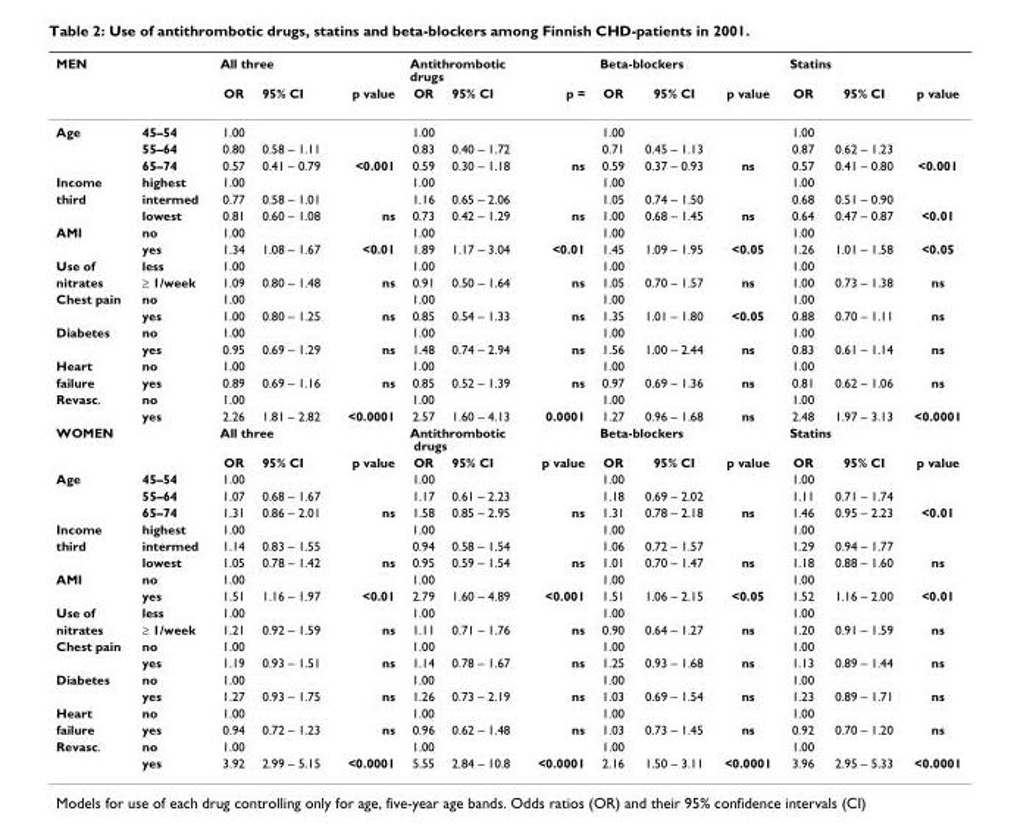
<table><thead><tr><td rowspan="2">MEN</td><td rowspan="2"></td><td colspan="3">All three</td><td colspan="3">Antithrombotic drugs</td><td colspan="3">Beta-blockers</td><td colspan="3">Statins</td></tr><tr><td>OR</td><td>95% CI</td><td>p value</td><td>OR</td><td>95% CI</td><td>p =</td><td>OR</td><td>95% CI</td><td>p value</td><td>OR</td><td>95% CI</td><td>p value</td></tr></thead><tbody><tr><td rowspan="3">Age</td><td>45–54</td><td>1.00</td><td></td><td></td><td>1.00</td><td></td><td></td><td>1.00</td><td></td><td></td><td>1.00</td><td></td><td></td></tr><tr><td>55–64</td><td>0.80</td><td>0.58 – 1.11</td><td></td><td>0.83</td><td>0.40 – 1.72</td><td></td><td>0.71</td><td>0.45 – 1.13</td><td></td><td>0.87</td><td>0.62 – 1.23</td><td></td></tr><tr><td>65–74</td><td>0.57</td><td>0.41 – 0.79</td><td>&lt;0.001</td><td>0.59</td><td>0.30 – 1.18</td><td>ns</td><td>0.59</td><td>0.37 – 0.93</td><td>ns</td><td>0.57</td><td>0.41 – 0.80</td><td>&lt;0.001</td></tr><tr><td>Income</td><td>highest</td><td>1.00</td><td></td><td></td><td>1.00</td><td></td><td></td><td>1.00</td><td></td><td></td><td>1.00</td><td></td><td></td></tr><tr><td rowspan="2">third</td><td>intermed</td><td>0.77</td><td>0.58 – 1.01</td><td></td><td>1.16</td><td>0.65 – 2.06</td><td></td><td>1.05</td><td>0.74 – 1.50</td><td></td><td>0.68</td><td>0.51 – 0.90</td><td></td></tr><tr><td>lowest</td><td>0.81</td><td>0.60 – 1.08</td><td>ns</td><td>0.73</td><td>0.42 – 1.29</td><td>ns</td><td>1.00</td><td>0.68 – 1.45</td><td>ns</td><td>0.64</td><td>0.47 – 0.87</td><td>&lt;0.01</td></tr><tr><td rowspan="2">AMI</td><td>no</td><td>1.00</td><td></td><td></td><td>1.00</td><td></td><td></td><td>1.00</td><td></td><td></td><td>1.00</td><td></td><td></td></tr><tr><td>yes</td><td>1.34</td><td>1.08 – 1.67</td><td>&lt;0.01</td><td>1.89</td><td>1.17 – 3.04</td><td>&lt;0.01</td><td>1.45</td><td>1.09 – 1.95</td><td>&lt;0.05</td><td>1.26</td><td>1.01 – 1.58</td><td>&lt;0.05</td></tr><tr><td>Use of</td><td>less</td><td>1.00</td><td></td><td></td><td>1.00</td><td></td><td></td><td>1.00</td><td></td><td></td><td>1.00</td><td></td><td></td></tr><tr><td>nitrates</td><td>≥ 1/week</td><td>1.09</td><td>0.80 – 1.48</td><td>ns</td><td>0.91</td><td>0.50 – 1.64</td><td>ns</td><td>1.05</td><td>0.70 – 1.57</td><td>ns</td><td>1.00</td><td>0.73 – 1.38</td><td>ns</td></tr><tr><td rowspan="2">Chest pain</td><td>no</td><td>1.00</td><td></td><td></td><td>1.00</td><td></td><td></td><td>1.00</td><td></td><td></td><td>1.00</td><td></td><td></td></tr><tr><td>yes</td><td>1.00</td><td>0.80 – 1.25</td><td>ns</td><td>0.85</td><td>0.54 – 1.33</td><td>ns</td><td>1.35</td><td>1.01 – 1.80</td><td>&lt;0.05</td><td>0.88</td><td>0.70 – 1.11</td><td>ns</td></tr><tr><td rowspan="2">Diabetes</td><td>no</td><td>1.00</td><td></td><td></td><td>1.00</td><td></td><td></td><td>1.00</td><td></td><td></td><td>1.00</td><td></td><td></td></tr><tr><td>yes</td><td>0.95</td><td>0.69 – 1.29</td><td>ns</td><td>1.48</td><td>0.74 – 2.94</td><td>ns</td><td>1.56</td><td>1.00 – 2.44</td><td>ns</td><td>0.83</td><td>0.61 – 1.14</td><td>ns</td></tr><tr><td>Heart</td><td>no</td><td>1.00</td><td></td><td></td><td>1.00</td><td></td><td></td><td>1.00</td><td></td><td></td><td>1.00</td><td></td><td></td></tr><tr><td>failure</td><td>yes</td><td>0.89</td><td>0.69 – 1.16</td><td>ns</td><td>0.85</td><td>0.52 – 1.39</td><td>ns</td><td>0.97</td><td>0.69 – 1.36</td><td>ns</td><td>0.81</td><td>0.62 – 1.06</td><td>ns</td></tr><tr><td rowspan="2">Revasc.</td><td>no</td><td>1.00</td><td></td><td></td><td>1.00</td><td></td><td></td><td>1.00</td><td></td><td></td><td>1.00</td><td></td><td></td></tr><tr><td>yes</td><td>2.26</td><td>1.81 – 2.82</td><td>&lt;0.0001</td><td>2.57</td><td>1.60 – 4.13</td><td>0.0001</td><td>1.27</td><td>0.96 – 1.68</td><td>ns</td><td>2.48</td><td>1.97 – 3.13</td><td>&lt;0.0001</td></tr><tr><td rowspan="2">WOMEN</td><td></td><td colspan="3">All three</td><td colspan="3">Antithrombotic drugs</td><td colspan="3">Beta-blockers</td><td colspan="3">Statins</td></tr><tr><td></td><td>OR</td><td>95% CI</td><td>p value</td><td>OR</td><td>95% CI</td><td>p value</td><td>OR</td><td>95% CI</td><td>p value</td><td>OR</td><td>95% CI</td><td>p value</td></tr><tr><td rowspan="3">Age</td><td>45–54</td><td>1.00</td><td></td><td></td><td>1.00</td><td></td><td></td><td>1.00</td><td></td><td></td><td>1.00</td><td></td><td></td></tr><tr><td>55–64</td><td>1.07</td><td>0.68 – 1.67</td><td></td><td>1.17</td><td>0.61 – 2.23</td><td></td><td>1.18</td><td>0.69 – 2.02</td><td></td><td>1.11</td><td>0.71 – 1.74</td><td></td></tr><tr><td>65–74</td><td>1.31</td><td>0.86 – 2.01</td><td>ns</td><td>1.58</td><td>0.85 – 2.95</td><td>ns</td><td>1.31</td><td>0.78 – 2.18</td><td>ns</td><td>1.46</td><td>0.95 – 2.23</td><td>&lt;0.01</td></tr><tr><td>Income</td><td>highest</td><td>1.00</td><td></td><td></td><td>1.00</td><td></td><td></td><td>1.00</td><td></td><td></td><td>1.00</td><td></td><td></td></tr><tr><td rowspan="2">third</td><td>intermed</td><td>1.14</td><td>0.83 – 1.55</td><td></td><td>0.94</td><td>0.58 – 1.54</td><td></td><td>1.06</td><td>0.72 – 1.57</td><td></td><td>1.29</td><td>0.94 – 1.77</td><td></td></tr><tr><td>lowest</td><td>1.05</td><td>0.78 – 1.42</td><td>ns</td><td>0.95</td><td>0.59 – 1.54</td><td>ns</td><td>1.01</td><td>0.70 – 1.47</td><td>ns</td><td>1.18</td><td>0.88 – 1.60</td><td>ns</td></tr><tr><td rowspan="2">AMI</td><td>no</td><td>1.00</td><td></td><td></td><td>1.00</td><td></td><td></td><td>1.00</td><td></td><td></td><td>1.00</td><td></td><td></td></tr><tr><td>yes</td><td>1.51</td><td>1.16 – 1.97</td><td>&lt;0.01</td><td>2.79</td><td>1.60 – 4.89</td><td>&lt;0.001</td><td>1.51</td><td>1.06 – 2.15</td><td>&lt;0.05</td><td>1.52</td><td>1.16 – 2.00</td><td>&lt;0.01</td></tr><tr><td>Use of</td><td>less</td><td>1.00</td><td></td><td></td><td>1.00</td><td></td><td></td><td>1.00</td><td></td><td></td><td>1.00</td><td></td><td></td></tr><tr><td>nitrates</td><td>≥ 1/week</td><td>1.21</td><td>0.92 – 1.59</td><td>ns</td><td>1.11</td><td>0.71 – 1.76</td><td>ns</td><td>0.90</td><td>0.64 – 1.27</td><td>ns</td><td>1.20</td><td>0.91 – 1.59</td><td>ns</td></tr><tr><td rowspan="2">Chest pain</td><td>no</td><td>1.00</td><td></td><td></td><td>1.00</td><td></td><td></td><td>1.00</td><td></td><td></td><td>1.00</td><td></td><td></td></tr><tr><td>yes</td><td>1.19</td><td>0.93 – 1.51</td><td>ns</td><td>1.14</td><td>0.78 – 1.67</td><td>ns</td><td>1.25</td><td>0.93 – 1.68</td><td>ns</td><td>1.13</td><td>0.89 – 1.44</td><td>ns</td></tr><tr><td rowspan="2">Diabetes</td><td>no</td><td>1.00</td><td></td><td></td><td>1.00</td><td></td><td></td><td>1.00</td><td></td><td></td><td>1.00</td><td></td><td></td></tr><tr><td>yes</td><td>1.27</td><td>0.93 – 1.75</td><td>ns</td><td>1.26</td><td>0.73 – 2.19</td><td>ns</td><td>1.03</td><td>0.69 – 1.54</td><td>ns</td><td>1.23</td><td>0.89 – 1.71</td><td>ns</td></tr><tr><td>Heart</td><td>no</td><td>1.00</td><td></td><td></td><td>1.00</td><td></td><td></td><td>1.00</td><td></td><td></td><td>1.00</td><td></td><td></td></tr><tr><td>failure</td><td>yes</td><td>0.94</td><td>0.72 – 1.23</td><td>ns</td><td>0.96</td><td>0.62 – 1.48</td><td>ns</td><td>1.03</td><td>0.73 – 1.45</td><td>ns</td><td>0.92</td><td>0.70 – 1.20</td><td>ns</td></tr><tr><td rowspan="2">Revasc.</td><td>no</td><td>1.00</td><td></td><td></td><td>1.00</td><td></td><td></td><td>1.00</td><td></td><td></td><td>1.00</td><td></td><td></td></tr><tr><td>yes</td><td>3.92</td><td>2.99 – 5.15</td><td>&lt;0.0001</td><td>5.55</td><td>2.84 – 10.8</td><td>&lt;0.0001</td><td>2.16</td><td>1.50 – 3.11</td><td>&lt;0.0001</td><td>3.96</td><td>2.95 – 5.33</td><td>&lt;0.0001</td></tr></tbody></table>